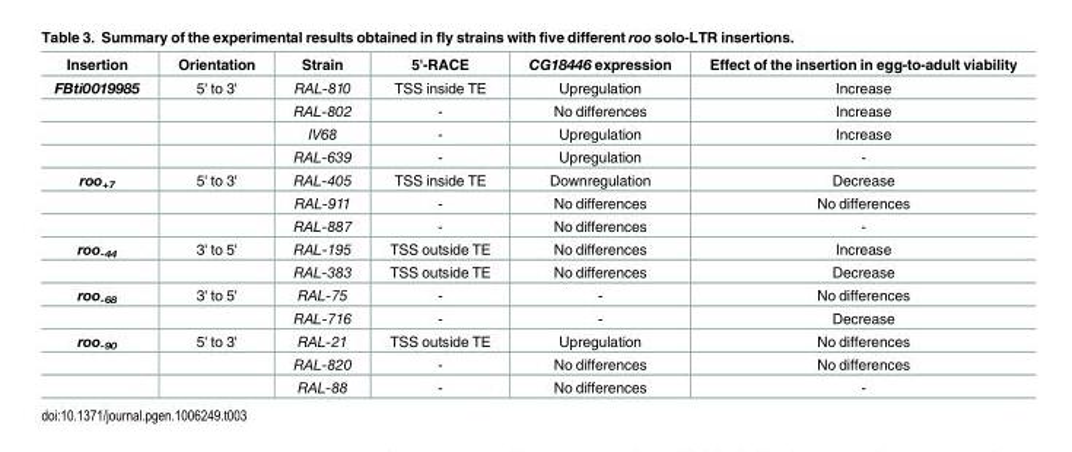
<table><thead><tr><td>Insertion</td><td>Orientation</td><td>Strain</td><td>5&#x27;-RACE</td><td>CG18446 expression</td><td>Effect of the insertion in egg-to-adult viability</td></tr></thead><tbody><tr><td rowspan="4">FBti0019985</td><td>5&#x27; to 3&#x27;</td><td>RAL-810</td><td>TSS inside TE</td><td>Upregulation</td><td>Increase</td></tr><tr><td></td><td>RAL-802</td><td>-</td><td>No differences</td><td>Increase</td></tr><tr><td></td><td>IV68</td><td>-</td><td>Upregulation</td><td>Increase</td></tr><tr><td></td><td>RAL-639</td><td>-</td><td>Upregulation</td><td>-</td></tr><tr><td rowspan="3">roo<sub>+7</sub></td><td>5&#x27; to 3&#x27;</td><td>RAL-405</td><td>TSS inside TE</td><td>Downregulation</td><td>Decrease</td></tr><tr><td></td><td>RAL-911</td><td>-</td><td>No differences</td><td>No differences</td></tr><tr><td></td><td>RAL-887</td><td>-</td><td>No differences</td><td>-</td></tr><tr><td rowspan="2">roo<sub>-44</sub></td><td>3&#x27; to 5&#x27;</td><td>RAL-195</td><td>TSS outside TE</td><td>No differences</td><td>Increase</td></tr><tr><td></td><td>RAL-383</td><td>TSS outside TE</td><td>No differences</td><td>Decrease</td></tr><tr><td rowspan="2">roo<sub>-68</sub></td><td>3&#x27; to 5&#x27;</td><td>RAL-75</td><td>-</td><td>-</td><td>No differences</td></tr><tr><td></td><td>RAL-716</td><td>-</td><td>-</td><td>Decrease</td></tr><tr><td rowspan="3">roo<sub>-90</sub></td><td>5&#x27; to 3&#x27;</td><td>RAL-21</td><td>TSS outside TE</td><td>Upregulation</td><td>No differences</td></tr><tr><td></td><td>RAL-820</td><td>-</td><td>No differences</td><td>No differences</td></tr><tr><td></td><td>RAL-88</td><td>-</td><td>No differences</td><td>-</td></tr></tbody></table>